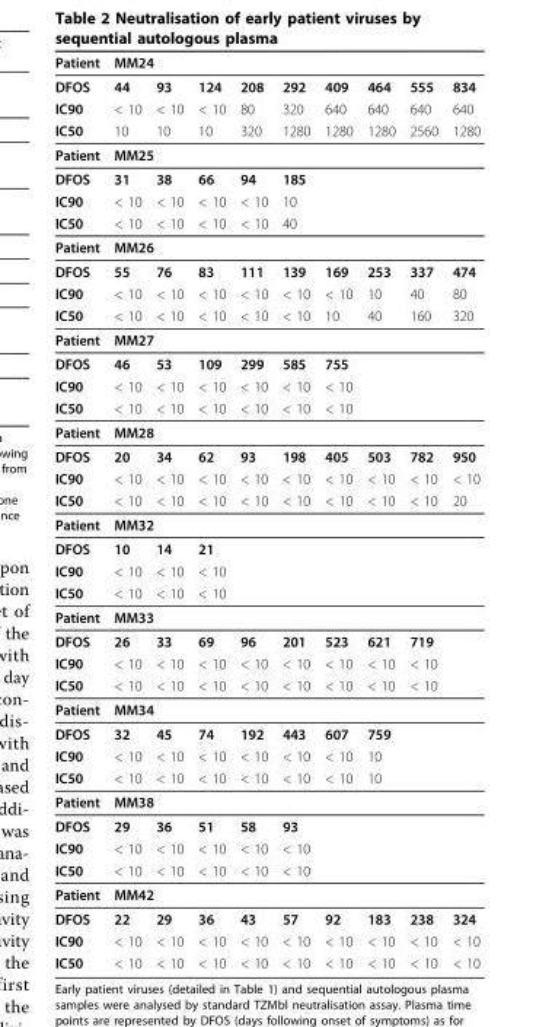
<table><thead><tr><td rowspan="2">Patient DFOS</td><td colspan="9">MM24</td></tr><tr><td>44</td><td>93</td><td>124</td><td>208</td><td>292</td><td>409</td><td>464</td><td>555</td><td>834</td></tr></thead><tbody><tr><td>IC90</td><td>&lt; 10</td><td>&lt; 10</td><td>&lt; 10</td><td>80</td><td>320</td><td>640</td><td>640</td><td>640</td><td>640</td></tr><tr><td>IC50</td><td>10</td><td>10</td><td>10</td><td>320</td><td>1280</td><td>1280</td><td>1280</td><td>2560</td><td>1280</td></tr><tr><td>Patient</td><td colspan="9">MM25</td></tr><tr><td>DFOS</td><td>31</td><td>38</td><td>66</td><td>94</td><td>185</td><td></td><td></td><td></td><td></td></tr><tr><td>IC90</td><td>&lt; 10</td><td>&lt; 10</td><td>&lt; 10</td><td>&lt; 10</td><td>10</td><td></td><td></td><td></td><td></td></tr><tr><td>IC50</td><td>&lt; 10</td><td>&lt; 10</td><td>&lt; 10</td><td>&lt; 10</td><td>40</td><td></td><td></td><td></td><td></td></tr><tr><td>Patient</td><td colspan="9">MM26</td></tr><tr><td>DFOS</td><td>55</td><td>76</td><td>83</td><td>111</td><td>139</td><td>169</td><td>253</td><td>337</td><td>474</td></tr><tr><td>IC90</td><td>&lt; 10</td><td>&lt; 10</td><td>&lt; 10</td><td>&lt; 10</td><td>&lt; 10</td><td>&lt; 10</td><td>10</td><td>40</td><td>80</td></tr><tr><td>IC50</td><td>&lt; 10</td><td>&lt; 10</td><td>&lt; 10</td><td>&lt; 10</td><td>&lt; 10</td><td>10</td><td>40</td><td>160</td><td>320</td></tr><tr><td>Patient</td><td colspan="9">MM27</td></tr><tr><td>DFOS</td><td>46</td><td>53</td><td>109</td><td>299</td><td>585</td><td>755</td><td></td><td></td><td></td></tr><tr><td>IC90</td><td>&lt; 10</td><td>&lt; 10</td><td>&lt; 10</td><td>&lt; 10</td><td>&lt; 10</td><td>&lt; 10</td><td></td><td></td><td></td></tr><tr><td>IC50</td><td>&lt; 10</td><td>&lt; 10</td><td>&lt; 10</td><td>&lt; 10</td><td>&lt; 10</td><td>&lt; 10</td><td></td><td></td><td></td></tr><tr><td>Patient</td><td colspan="9">MM28</td></tr><tr><td>DFOS</td><td>20</td><td>34</td><td>62</td><td>93</td><td>198</td><td>405</td><td>503</td><td>782</td><td>950</td></tr><tr><td>IC90</td><td>&lt; 10</td><td>&lt; 10</td><td>&lt; 10</td><td>&lt; 10</td><td>&lt; 10</td><td>&lt; 10</td><td>&lt; 10</td><td>&lt; 10</td><td>&lt; 10</td></tr><tr><td>IC50</td><td>&lt; 10</td><td>&lt; 10</td><td>&lt; 10</td><td>&lt; 10</td><td>&lt; 10</td><td>&lt; 10</td><td>&lt; 10</td><td>&lt; 10</td><td>20</td></tr><tr><td>Patient</td><td colspan="9">MM32</td></tr><tr><td>DFOS</td><td>10</td><td>14</td><td>21</td><td></td><td></td><td></td><td></td><td></td><td></td></tr><tr><td>IC90</td><td>&lt; 10</td><td>&lt; 10</td><td>&lt; 10</td><td></td><td></td><td></td><td></td><td></td><td></td></tr><tr><td>IC50</td><td>&lt; 10</td><td>&lt; 10</td><td>&lt; 10</td><td></td><td></td><td></td><td></td><td></td><td></td></tr><tr><td>Patient</td><td colspan="9">MM33</td></tr><tr><td>DFOS</td><td>26</td><td>33</td><td>69</td><td>96</td><td>201</td><td>523</td><td>621</td><td>719</td><td></td></tr><tr><td>IC90</td><td>&lt; 10</td><td>&lt; 10</td><td>&lt; 10</td><td>&lt; 10</td><td>&lt; 10</td><td>&lt; 10</td><td>&lt; 10</td><td>&lt; 10</td><td></td></tr><tr><td>IC50</td><td>&lt; 10</td><td>&lt; 10</td><td>&lt; 10</td><td>&lt; 10</td><td>&lt; 10</td><td>&lt; 10</td><td>&lt; 10</td><td>&lt; 10</td><td></td></tr><tr><td>Patient</td><td colspan="9">MM34</td></tr><tr><td>DFOS</td><td>32</td><td>45</td><td>74</td><td>192</td><td>443</td><td>607</td><td>759</td><td></td><td></td></tr><tr><td>IC90</td><td>&lt; 10</td><td>&lt; 10</td><td>&lt; 10</td><td>&lt; 10</td><td>&lt; 10</td><td>&lt; 10</td><td>10</td><td></td><td></td></tr><tr><td>IC50</td><td>&lt; 10</td><td>&lt; 10</td><td>&lt; 10</td><td>&lt; 10</td><td>&lt; 10</td><td>&lt; 10</td><td>10</td><td></td><td></td></tr><tr><td>Patient</td><td colspan="9">MM38</td></tr><tr><td>DFOS</td><td>29</td><td>36</td><td>51</td><td>58</td><td>93</td><td></td><td></td><td></td><td></td></tr><tr><td>IC90</td><td>&lt; 10</td><td>&lt; 10</td><td>&lt; 10</td><td>&lt; 10</td><td>&lt; 10</td><td></td><td></td><td></td><td></td></tr><tr><td>IC50</td><td>&lt; 10</td><td>&lt; 10</td><td>&lt; 10</td><td>&lt; 10</td><td>&lt; 10</td><td></td><td></td><td></td><td></td></tr><tr><td>Patient</td><td colspan="9">MM42</td></tr><tr><td>DFOS</td><td>22</td><td>29</td><td>36</td><td>43</td><td>57</td><td>92</td><td>183</td><td>238</td><td>324</td></tr><tr><td>IC90</td><td>&lt; 10</td><td>&lt; 10</td><td>&lt; 10</td><td>&lt; 10</td><td>&lt; 10</td><td>&lt; 10</td><td>&lt; 10</td><td>&lt; 10</td><td>&lt; 10</td></tr><tr><td>IC50</td><td>&lt; 10</td><td>&lt; 10</td><td>&lt; 10</td><td>&lt; 10</td><td>&lt; 10</td><td>&lt; 10</td><td>&lt; 10</td><td>&lt; 10</td><td>&lt; 10</td></tr></tbody></table>